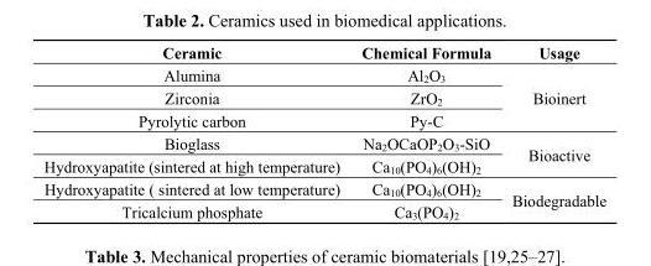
<table><thead><tr><td>Ceramic</td><td>Chemical Formula</td><td>Usage</td></tr></thead><tbody><tr><td>Alumina</td><td>Al<sub>2</sub>O<sub>3</sub></td><td rowspan="3">Bioinert</td></tr><tr><td>Zirconia</td><td>ZrO<sub>2</sub></td></tr><tr><td>Pyrolytic carbon</td><td>Py-C</td></tr><tr><td>Bioglass</td><td>Na<sub>2</sub>OCaOP<sub>2</sub>O<sub>3</sub>-SiO</td><td rowspan="2">Bioactive</td></tr><tr><td>Hydroxyapatite (sintered at high temperature)</td><td>Ca<sub>10</sub>(PO<sub>4</sub>)<sub>6</sub>(OH)<sub>2</sub></td></tr><tr><td>Hydroxyapatite ( sintered at low temperature)</td><td>Ca<sub>10</sub>(PO<sub>4</sub>)<sub>6</sub>(OH)<sub>2</sub></td><td rowspan="2">Biodegradable</td></tr><tr><td>Tricalcium phosphate</td><td>Ca<sub>3</sub>(PO<sub>4</sub>)<sub>2</sub></td></tr></tbody></table>